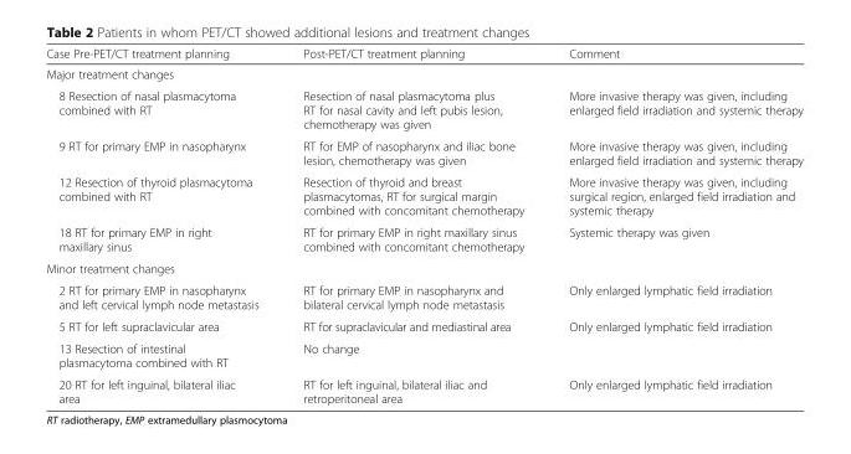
<table><thead><tr><td>Case Pre-PET/CT treatment planning</td><td>Post-PET/CT treatment planning</td><td>Comment</td></tr></thead><tbody><tr><td colspan="3">Major treatment changes</td></tr><tr><td>8 Resection of nasal plasmacytoma combined with RT</td><td>Resection of nasal plasmacytoma plus RT for nasal cavity and left pubis lesion, chemotherapy was given</td><td>More invasive therapy was given, including enlarged field irradiation and systemic therapy</td></tr><tr><td>9 RT for primary EMP in nasopharynx</td><td>RT for EMP of nasopharynx and iliac bone lesion, chemotherapy was given</td><td>More invasive therapy was given, including enlarged field irradiation and systemic therapy</td></tr><tr><td>12 Resection of thyroid plasmacytoma combined with RT</td><td>Resection of thyroid and breast plasmacytomas, RT for surgical margin combined with concomitant chemotherapy</td><td>More invasive therapy was given, including surgical region, enlarged field irradiation and systemic therapy</td></tr><tr><td>18 RT for primary EMP in right maxillary sinus</td><td>RT for primary EMP in right maxillary sinus combined with concomitant chemotherapy</td><td>Systemic therapy was given</td></tr><tr><td colspan="3">Minor treatment changes</td></tr><tr><td>2 RT for primary EMP in nasopharynx and left cervical lymph node metastasis</td><td>RT for primary EMP in nasopharynx and bilateral cervical lymph node metastasis</td><td>Only enlarged lymphatic field irradiation</td></tr><tr><td>5 RT for left supraclavicular area</td><td>RT for supraclavicular and mediastinal area</td><td>Only enlarged lymphatic field irradiation</td></tr><tr><td>13 Resection of intestinal plasmacytoma combined with RT</td><td>No change</td><td></td></tr><tr><td>20 RT for left inguinal, bilateral iliac area</td><td>RT for left inguinal, bilateral iliac and retroperitoneal area</td><td>Only enlarged lymphatic field irradiation</td></tr></tbody></table>